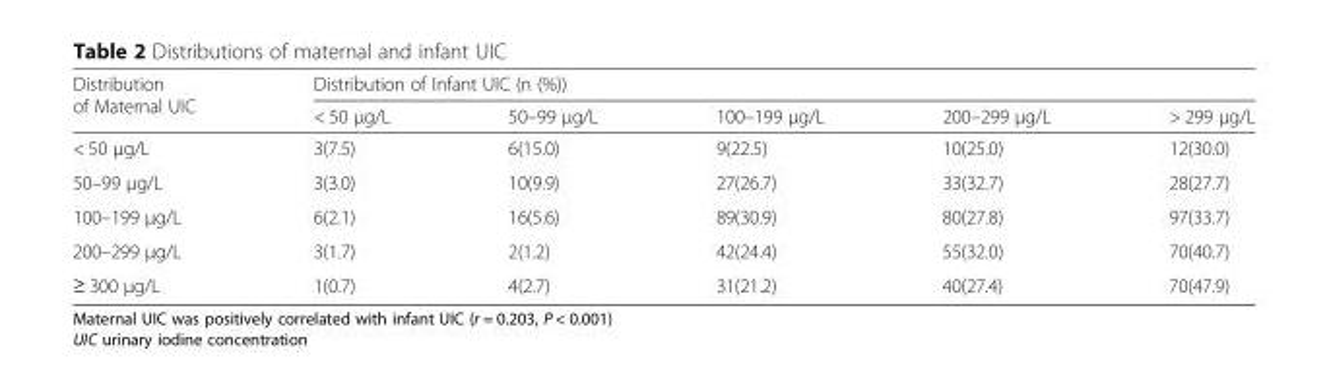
<table><thead><tr><td rowspan="2">Distribution of Maternal UIC</td><td colspan="5">Distribution of Infant UIC (n (%))</td></tr><tr><td>&lt; 50 μg/L</td><td>50–99 μg/L</td><td>100–199 μg/L</td><td>200–299 μg/L</td><td>&gt; 299 μg/L</td></tr></thead><tbody><tr><td>&lt; 50 μg/L</td><td>3(7.5)</td><td>6(15.0)</td><td>9(22.5)</td><td>10(25.0)</td><td>12(30.0)</td></tr><tr><td>50–99 μg/L</td><td>3(3.0)</td><td>10(9.9)</td><td>27(26.7)</td><td>33(32.7)</td><td>28(27.7)</td></tr><tr><td>100–199 μg/L</td><td>6(2.1)</td><td>16(5.6)</td><td>89(30.9)</td><td>80(27.8)</td><td>97(33.7)</td></tr><tr><td>200–299 μg/L</td><td>3(1.7)</td><td>2(1.2)</td><td>42(24.4)</td><td>55(32.0)</td><td>70(40.7)</td></tr><tr><td>≥ 300 μg/L</td><td>1(0.7)</td><td>4(2.7)</td><td>31(21.2)</td><td>40(27.4)</td><td>70(47.9)</td></tr></tbody></table>